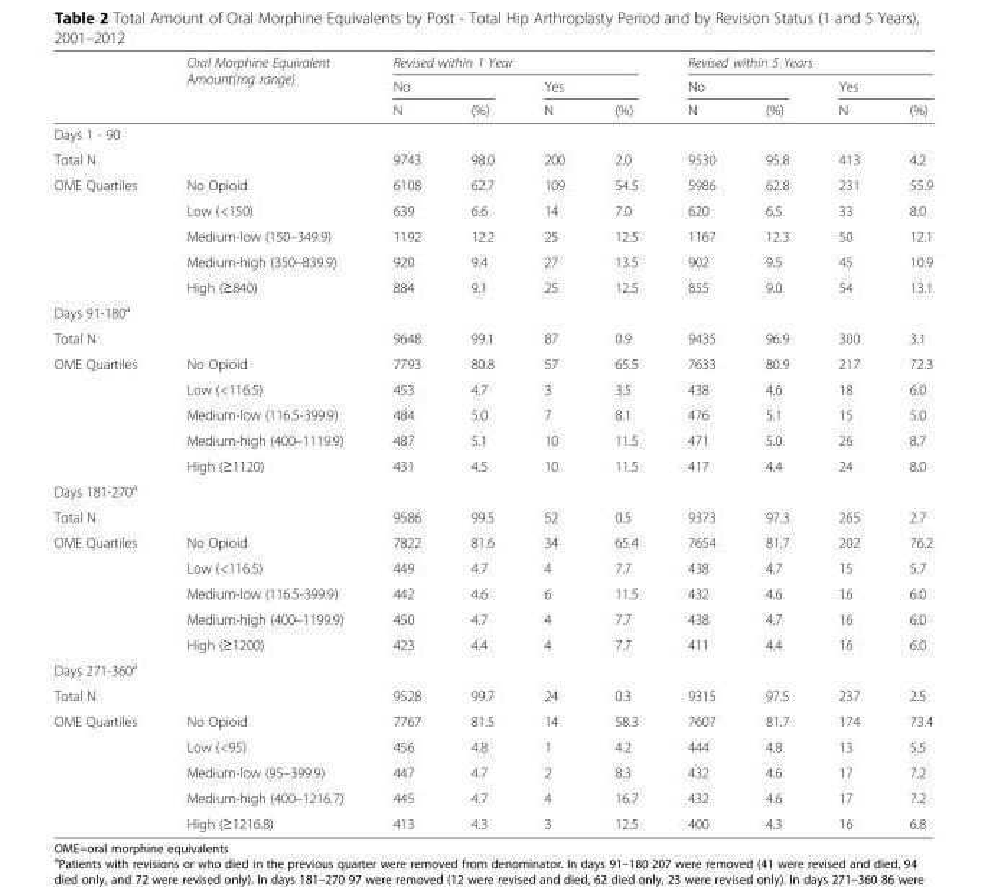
<table><thead><tr><td rowspan="3"></td><td rowspan="3">Oral Morphine Equivalent Amount(mg range)</td><td colspan="4">Revised within 1 Year</td><td colspan="4">Revised within 5 Years</td></tr><tr><td colspan="2">No</td><td colspan="2">Yes</td><td colspan="2">No</td><td colspan="2">Yes</td></tr><tr><td>N</td><td>(%)</td><td>N</td><td>(%)</td><td>N</td><td>(%)</td><td>N</td><td>(%)</td></tr></thead><tbody><tr><td colspan="10">Days 1 - 90</td></tr><tr><td>Total N</td><td></td><td>9743</td><td>98.0</td><td>200</td><td>2.0</td><td>9530</td><td>95.8</td><td>413</td><td>4.2</td></tr><tr><td rowspan="5">OME Quartiles</td><td>No Opioid</td><td>6108</td><td>62.7</td><td>109</td><td>54.5</td><td>5986</td><td>62.8</td><td>231</td><td>55.9</td></tr><tr><td>Low (&lt;150)</td><td>639</td><td>6.6</td><td>14</td><td>7.0</td><td>620</td><td>6.5</td><td>33</td><td>8.0</td></tr><tr><td>Medium-low (150–349.9)</td><td>1192</td><td>12.2</td><td>25</td><td>12.5</td><td>1167</td><td>12.3</td><td>50</td><td>12.1</td></tr><tr><td>Medium-high (350–839.9)</td><td>920</td><td>9.4</td><td>27</td><td>13.5</td><td>902</td><td>9.5</td><td>45</td><td>10.9</td></tr><tr><td>High (≥840)</td><td>884</td><td>9.1</td><td>25</td><td>12.5</td><td>855</td><td>9.0</td><td>54</td><td>13.1</td></tr><tr><td colspan="10">Days 91-180<sup>a</sup></td></tr><tr><td>Total N</td><td></td><td>9648</td><td>99.1</td><td>87</td><td>0.9</td><td>9435</td><td>96.9</td><td>300</td><td>3.1</td></tr><tr><td rowspan="5">OME Quartiles</td><td>No Opioid</td><td>7793</td><td>80.8</td><td>57</td><td>65.5</td><td>7633</td><td>80.9</td><td>217</td><td>72.3</td></tr><tr><td>Low (&lt;116.5)</td><td>453</td><td>4.7</td><td>3</td><td>3.5</td><td>438</td><td>4.6</td><td>18</td><td>6.0</td></tr><tr><td>Medium-low (116.5-399.9)</td><td>484</td><td>5.0</td><td>7</td><td>8.1</td><td>476</td><td>5.1</td><td>15</td><td>5.0</td></tr><tr><td>Medium-high (400–1119.9)</td><td>487</td><td>5.1</td><td>10</td><td>11.5</td><td>471</td><td>5.0</td><td>26</td><td>8.7</td></tr><tr><td>High (≥1120)</td><td>431</td><td>4.5</td><td>10</td><td>11.5</td><td>417</td><td>4.4</td><td>24</td><td>8.0</td></tr><tr><td colspan="10">Days 181-270<sup>a</sup></td></tr><tr><td>Total N</td><td></td><td>9586</td><td>99.5</td><td>52</td><td>0.5</td><td>9373</td><td>97.3</td><td>265</td><td>2.7</td></tr><tr><td rowspan="5">OME Quartiles</td><td>No Opioid</td><td>7822</td><td>81.6</td><td>34</td><td>65.4</td><td>7654</td><td>81.7</td><td>202</td><td>76.2</td></tr><tr><td>Low (&lt;116.5)</td><td>449</td><td>4.7</td><td>4</td><td>7.7</td><td>438</td><td>4.7</td><td>15</td><td>5.7</td></tr><tr><td>Medium-low (116.5-399.9)</td><td>442</td><td>4.6</td><td>6</td><td>11.5</td><td>432</td><td>4.6</td><td>16</td><td>6.0</td></tr><tr><td>Medium-high (400–1199.9)</td><td>450</td><td>4.7</td><td>4</td><td>7.7</td><td>438</td><td>4.7</td><td>16</td><td>6.0</td></tr><tr><td>High (≥1200)</td><td>423</td><td>4.4</td><td>4</td><td>7.7</td><td>411</td><td>4.4</td><td>16</td><td>6.0</td></tr><tr><td colspan="10">Days 271-360<sup>a</sup></td></tr><tr><td>Total N</td><td></td><td>9528</td><td>99.7</td><td>24</td><td>0.3</td><td>9315</td><td>97.5</td><td>237</td><td>2.5</td></tr><tr><td rowspan="5">OME Quartiles</td><td>No Opioid</td><td>7767</td><td>81.5</td><td>14</td><td>58.3</td><td>7607</td><td>81.7</td><td>174</td><td>73.4</td></tr><tr><td>Low (&lt;95)</td><td>456</td><td>4.8</td><td>1</td><td>4.2</td><td>444</td><td>4.8</td><td>13</td><td>5.5</td></tr><tr><td>Medium-low (95–399.9)</td><td>447</td><td>4.7</td><td>2</td><td>8.3</td><td>432</td><td>4.6</td><td>17</td><td>7.2</td></tr><tr><td>Medium-high (400–1216.7)</td><td>445</td><td>4.7</td><td>4</td><td>16.7</td><td>432</td><td>4.6</td><td>17</td><td>7.2</td></tr><tr><td>High (≥1216.8)</td><td>413</td><td>4.3</td><td>3</td><td>12.5</td><td>400</td><td>4.3</td><td>16</td><td>6.8</td></tr></tbody></table>